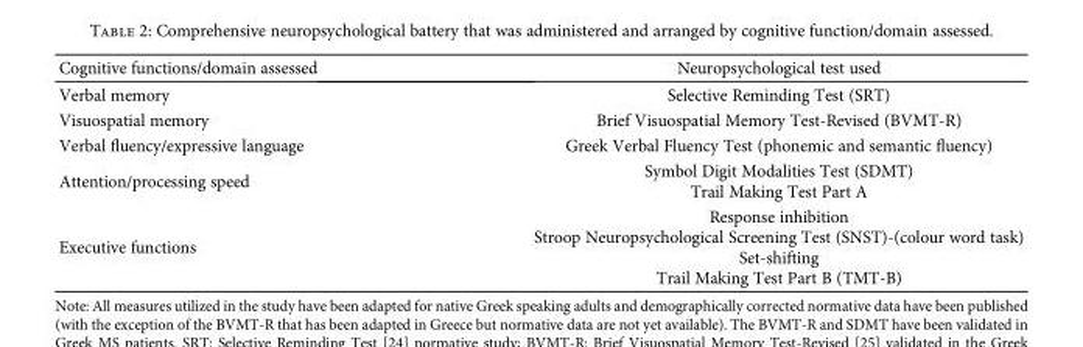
<table><thead><tr><td>Cognitive functions/domain assessed</td><td>Neuropsychological test used</td></tr></thead><tbody><tr><td>Verbal memory</td><td>Selective Reminding Test (SRT)</td></tr><tr><td>Visuospatial memory</td><td>Brief Visuospatial Memory Test-Revised (BVMT-R)</td></tr><tr><td>Verbal fluency/expressive language</td><td>Greek Verbal Fluency Test (phonemic and semantic fluency)</td></tr><tr><td>Attention/processing speed</td><td>Symbol Digit Modalities Test (SDMT) Trail Making Test Part A</td></tr><tr><td>Executive functions</td><td>Response inhibition Stroop Neuropsychological Screening Test (SNST)-(colour word task) Set-shifting Trail Making Test Part B (TMT-B)</td></tr></tbody></table>